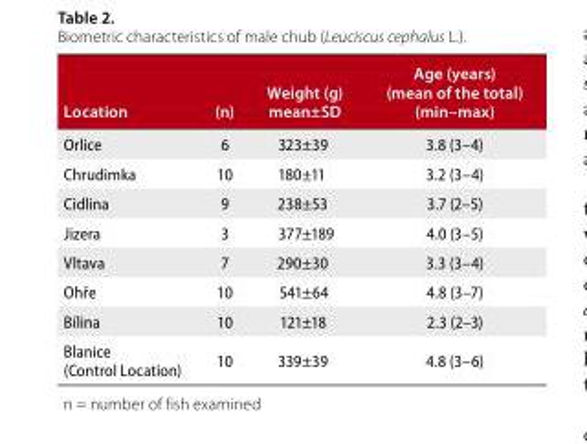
<table><thead><tr><td>location</td><td>(n)</td><td>Weight (g) mean±Sd</td><td>age (years) (mean of the total) (min–max)</td></tr></thead><tbody><tr><td>Orlice</td><td>6</td><td>323±39</td><td>3.8 (3–4)</td></tr><tr><td>Chrudimka</td><td>10</td><td>180±11</td><td>3.2 (3–4)</td></tr><tr><td>Cidlina</td><td>9</td><td>238±53</td><td>3.7 (2–5)</td></tr><tr><td>Jizera</td><td>3</td><td>377±189</td><td>4.0 (3–5)</td></tr><tr><td>Vltava</td><td>7</td><td>290±30</td><td>3.3 (3–4)</td></tr><tr><td>Ohře</td><td>10</td><td>541±64</td><td>4.8 (3–7)</td></tr><tr><td>Bílina</td><td>10</td><td>121±18</td><td>2.3 (2–3)</td></tr><tr><td>Blanice (Control Location)</td><td>10</td><td>339±39</td><td>4.8 (3–6)</td></tr></tbody></table>